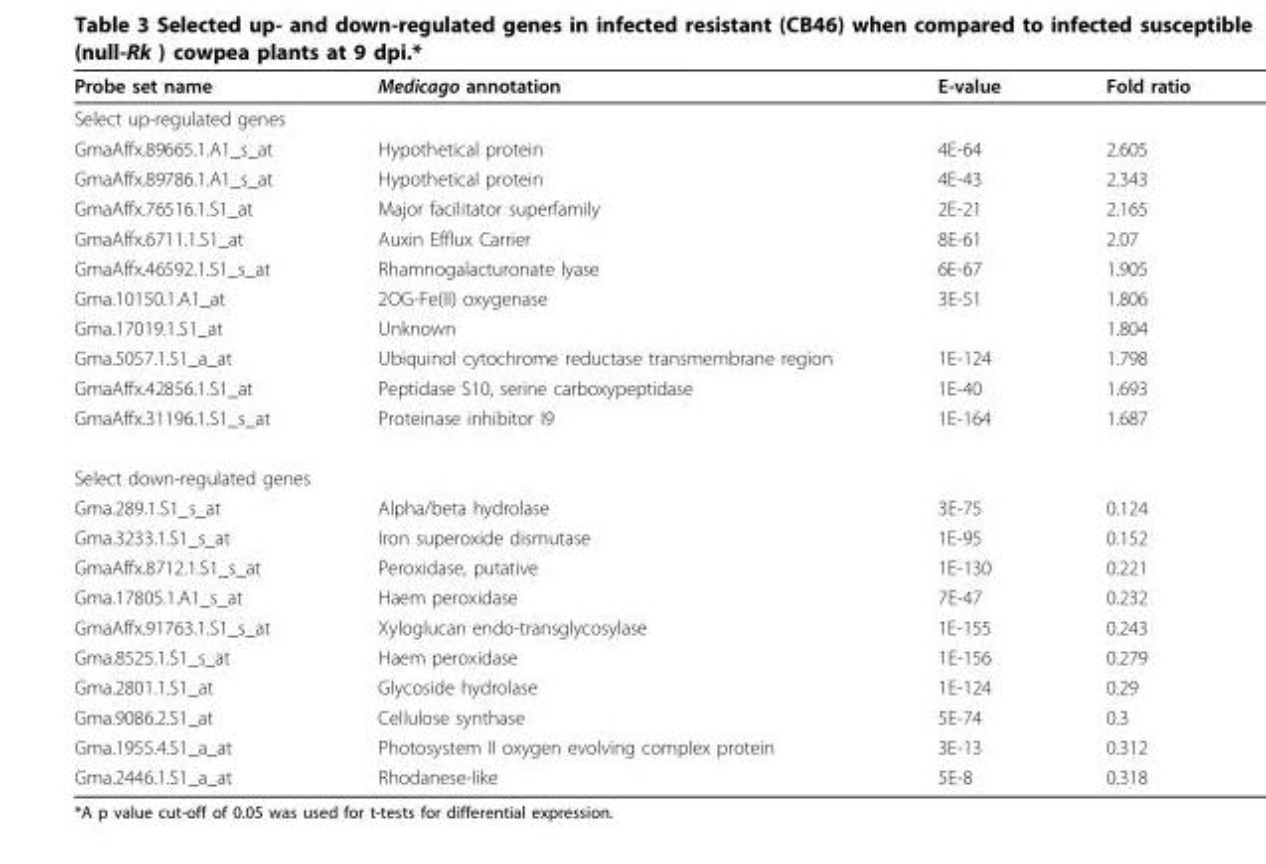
<table><thead><tr><td>Probe set name</td><td>Medicago annotation</td><td>E-value</td><td>Fold ratio</td></tr></thead><tbody><tr><td colspan="4">Select up-regulated genes</td></tr><tr><td>GmaAffx.89665.1.A1_s_at</td><td>Hypothetical protein</td><td>4E-64</td><td>2.605</td></tr><tr><td>GmaAffx.89786.1.A1_s_at</td><td>Hypothetical protein</td><td>4E-43</td><td>2.343</td></tr><tr><td>GmaAffx.76516.1.S1_at</td><td>Major facilitator superfamily</td><td>2E-21</td><td>2.165</td></tr><tr><td>GmaAffx.6711.1.S1_at</td><td>Auxin Efflux Carrier</td><td>8E-61</td><td>2.07</td></tr><tr><td>GmaAffx.46592.1.S1_s_at</td><td>Rhamnogalacturonate lyase</td><td>6E-67</td><td>1.905</td></tr><tr><td>Gma.10150.1.A1_at</td><td>2OG-Fe(II) oxygenase</td><td>3E-51</td><td>1.806</td></tr><tr><td>Gma.17019.1.S1_at</td><td>Unknown</td><td></td><td>1.804</td></tr><tr><td>Gma.5057.1.S1_a_at</td><td>Ubiquinol cytochrome reductase transmembrane region</td><td>1E-124</td><td>1.798</td></tr><tr><td>GmaAffx.42856.1.S1_at</td><td>Peptidase S10, serine carboxypeptidase</td><td>1E-40</td><td>1.693</td></tr><tr><td>GmaAffx.31196.1.S1_s_at</td><td>Proteinase inhibitor I9</td><td>1E-164</td><td>1.687</td></tr><tr><td colspan="4">Select down-regulated genes</td></tr><tr><td>Gma.289.1.S1_s_at</td><td>Alpha/beta hydrolase</td><td>3E-75</td><td>0.124</td></tr><tr><td>Gma.3233.1.S1_s_at</td><td>Iron superoxide dismutase</td><td>1E-95</td><td>0.152</td></tr><tr><td>GmaAffx.8712.1.S1_s_at</td><td>Peroxidase, putative</td><td>1E-130</td><td>0.221</td></tr><tr><td>Gma.17805.1.A1_s_at</td><td>Haem peroxidase</td><td>7E-47</td><td>0.232</td></tr><tr><td>GmaAffx.91763.1.S1_s_at</td><td>Xyloglucan endo-transglycosylase</td><td>1E-155</td><td>0.243</td></tr><tr><td>Gma.8525.1.S1_s_at</td><td>Haem peroxidase</td><td>1E-156</td><td>0.279</td></tr><tr><td>Gma.2801.1.S1_at</td><td>Glycoside hydrolase</td><td>1E-124</td><td>0.29</td></tr><tr><td>Gma.9086.2.S1_at</td><td>Cellulose synthase</td><td>5E-74</td><td>0.3</td></tr><tr><td>Gma.1955.4.S1_a_at</td><td>Photosystem II oxygen evolving complex protein</td><td>3E-13</td><td>0.312</td></tr><tr><td>Gma.2446.1.S1_a_at</td><td>Rhodanese-like</td><td>5E-8</td><td>0.318</td></tr></tbody></table>